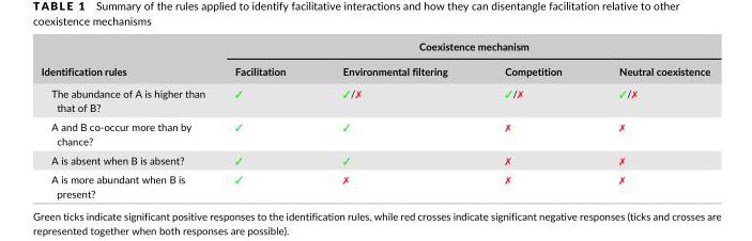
<table><thead><tr><td rowspan="2">Identification rules</td><td colspan="4">Coexistence mechanism</td></tr><tr><td>Facilitation</td><td>Environmental filtering</td><td>Competition</td><td>Neutral coexistence</td></tr></thead><tbody><tr><td>The abundance of A is higher than that of B?</td><td>✓</td><td>✓/✗</td><td>✓/✗</td><td>✓/✗</td></tr><tr><td>A and B co- occur more than by chance?</td><td>✓</td><td>✓</td><td>✗</td><td>✗</td></tr><tr><td>A is absent when B is absent?</td><td>✓</td><td>✓</td><td>✗</td><td>✗</td></tr><tr><td>A is more abundant when B is present?</td><td>✓</td><td>✗</td><td>✗</td><td>✗</td></tr></tbody></table>